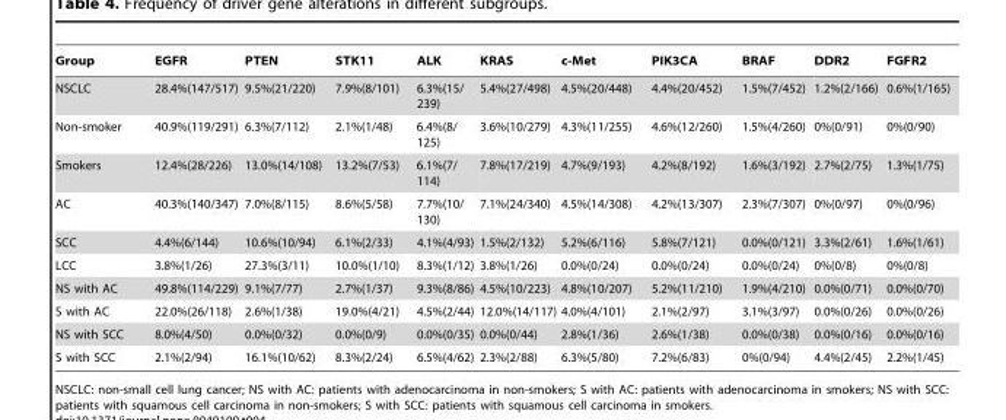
<table><thead><tr><td>Group</td><td>EGFR</td><td>PTEN</td><td>STK11</td><td>ALK</td><td>KRAS</td><td>c-Met</td><td>PIK3CA</td><td>BRAF</td><td>DDR2</td><td>FGFR2</td></tr></thead><tbody><tr><td>NSCLC</td><td>28.4%(147/517)</td><td>9.5%(21/220)</td><td>7.9%(8/101)</td><td>6.3%(15/ 239)</td><td>5.4%(27/498)</td><td>4.5%(20/448)</td><td>4.4%(20/452)</td><td>1.5%(7/452)</td><td>1.2%(2/166)</td><td>0.6%(1/165)</td></tr><tr><td>Non-smoker</td><td>40.9%(119/291)</td><td>6.3%(7/112)</td><td>2.1%(1/48)</td><td>6.4%(8/ 125)</td><td>3.6%(10/279)</td><td>4.3%(11/255)</td><td>4.6%(12/260)</td><td>1.5%(4/260)</td><td>0%(0/91)</td><td>0%(0/90)</td></tr><tr><td>Smokers</td><td>12.4%(28/226)</td><td>13.0%(14/108)</td><td>13.2%(7/53)</td><td>6.1%(7/ 114)</td><td>7.8%(17/219)</td><td>4.7%(9/193)</td><td>4.2%(8/192)</td><td>1.6%(3/192)</td><td>2.7%(2/75)</td><td>1.3%(1/75)</td></tr><tr><td>AC</td><td>40.3%(140/347)</td><td>7.0%(8/115)</td><td>8.6%(5/58)</td><td>7.7%(10/ 130)</td><td>7.1%(24/340)</td><td>4.5%(14/308)</td><td>4.2%(13/307)</td><td>2.3%(7/307)</td><td>0%(0/97)</td><td>0%(0/96)</td></tr><tr><td>SCC</td><td>4.4%(6/144)</td><td>10.6%(10/94)</td><td>6.1%(2/33)</td><td>4.1%(4/93)</td><td>1.5%(2/132)</td><td>5.2%(6/116)</td><td>5.8%(7/121)</td><td>0.0%(0/121)</td><td>3.3%(2/61)</td><td>1.6%(1/61)</td></tr><tr><td>LCC</td><td>3.8%(1/26)</td><td>27.3%(3/11)</td><td>10.0%(1/10)</td><td>8.3%(1/12)</td><td>3.8%(1/26)</td><td>0.0%(0/24)</td><td>0.0%(0/24)</td><td>0.0%(0/24)</td><td>0%(0/8)</td><td>0%(0/8)</td></tr><tr><td>NS with AC</td><td>49.8%(114/229)</td><td>9.1%(7/77)</td><td>2.7%(1/37)</td><td>9.3%(8/86)</td><td>4.5%(10/223)</td><td>4.8%(10/207)</td><td>5.2%(11/210)</td><td>1.9%(4/210)</td><td>0.0%(0/71)</td><td>0.0%(0/70)</td></tr><tr><td>S with AC</td><td>22.0%(26/118)</td><td>2.6%(1/38)</td><td>19.0%(4/21)</td><td>4.5%(2/44)</td><td>12.0%(14/117)</td><td>4.0%(4/101)</td><td>2.1%(2/97)</td><td>3.1%(3/97)</td><td>0.0%(0/26)</td><td>0.0%(0/26)</td></tr><tr><td>NS with SCC</td><td>8.0%(4/50)</td><td>0.0%(0/32)</td><td>0.0%(0/9)</td><td>0.0%(0/35)</td><td>0.0%(0/44)</td><td>2.8%(1/36)</td><td>2.6%(1/38)</td><td>0.0%(0/38)</td><td>0.0%(0/16)</td><td>0.0%(0/16)</td></tr><tr><td>S with SCC</td><td>2.1%(2/94)</td><td>16.1%(10/62)</td><td>8.3%(2/24)</td><td>6.5%(4/62)</td><td>2.3%(2/88)</td><td>6.3%(5/80)</td><td>7.2%(6/83)</td><td>0%(0/94)</td><td>4.4%(2/45)</td><td>2.2%(1/45)</td></tr></tbody></table>